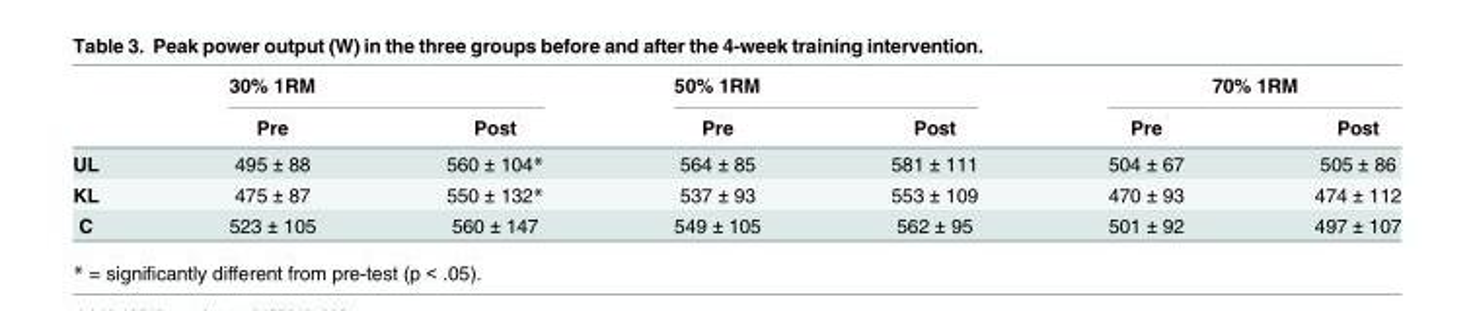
<table><thead><tr><td rowspan="2"></td><td colspan="2">30% 1RM</td><td colspan="2">50% 1RM</td><td colspan="2">70% 1RM</td></tr><tr><td>Pre</td><td>Post</td><td>Pre</td><td>Post</td><td>Pre</td><td>Post</td></tr></thead><tbody><tr><td>UL</td><td>495 ± 88</td><td>560 ± 104*</td><td>564 ± 85</td><td>581 ± 111</td><td>504 ± 67</td><td>505 ± 86</td></tr><tr><td>KL</td><td>475 ± 87</td><td>550 ± 132*</td><td>537 ± 93</td><td>553 ± 109</td><td>470 ± 93</td><td>474 ± 112</td></tr><tr><td>C</td><td>523 ± 105</td><td>560 ± 147</td><td>549 ± 105</td><td>562 ± 95</td><td>501 ± 92</td><td>497 ± 107</td></tr></tbody></table>